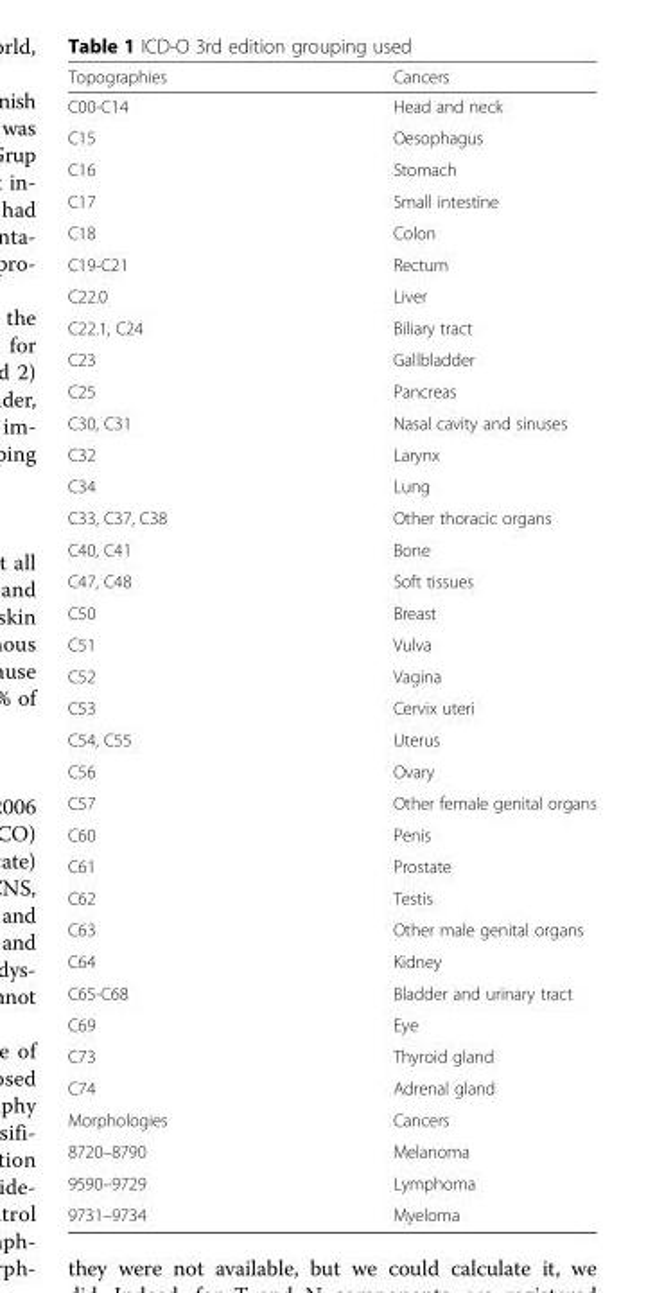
<table><thead><tr><td>Topographies</td><td>Cancers</td></tr></thead><tbody><tr><td>C00-C14</td><td>Head and neck</td></tr><tr><td>C15</td><td>Oesophagus</td></tr><tr><td>C16</td><td>Stomach</td></tr><tr><td>C17</td><td>Small intestine</td></tr><tr><td>C18</td><td>Colon</td></tr><tr><td>C19-C21</td><td>Rectum</td></tr><tr><td>C22.0</td><td>Liver</td></tr><tr><td>C22.1, C24</td><td>Biliary tract</td></tr><tr><td>C23</td><td>Gallbladder</td></tr><tr><td>C25</td><td>Pancreas</td></tr><tr><td>C30, C31</td><td>Nasal cavity and sinuses</td></tr><tr><td>C32</td><td>Larynx</td></tr><tr><td>C34</td><td>Lung</td></tr><tr><td>C33, C37, C38</td><td>Other thoracic organs</td></tr><tr><td>C40, C41</td><td>Bone</td></tr><tr><td>C47, C48</td><td>Soft tissues</td></tr><tr><td>C50</td><td>Breast</td></tr><tr><td>C51</td><td>Vulva</td></tr><tr><td>C52</td><td>Vagina</td></tr><tr><td>C53</td><td>Cervix uteri</td></tr><tr><td>C54, C55</td><td>Uterus</td></tr><tr><td>C56</td><td>Ovary</td></tr><tr><td>C57</td><td>Other female genital organs</td></tr><tr><td>C60</td><td>Penis</td></tr><tr><td>C61</td><td>Prostate</td></tr><tr><td>C62</td><td>Testis</td></tr><tr><td>C63</td><td>Other male genital organs</td></tr><tr><td>C64</td><td>Kidney</td></tr><tr><td>C65-C68</td><td>Bladder and urinary tract</td></tr><tr><td>C69</td><td>Eye</td></tr><tr><td>C73</td><td>Thyroid gland</td></tr><tr><td>C74</td><td>Adrenal gland</td></tr><tr><td>Morphologies</td><td>Cancers</td></tr><tr><td>8720–8790</td><td>Melanoma</td></tr><tr><td>9590–9729</td><td>Lymphoma</td></tr><tr><td>9731–9734</td><td>Myeloma</td></tr></tbody></table>